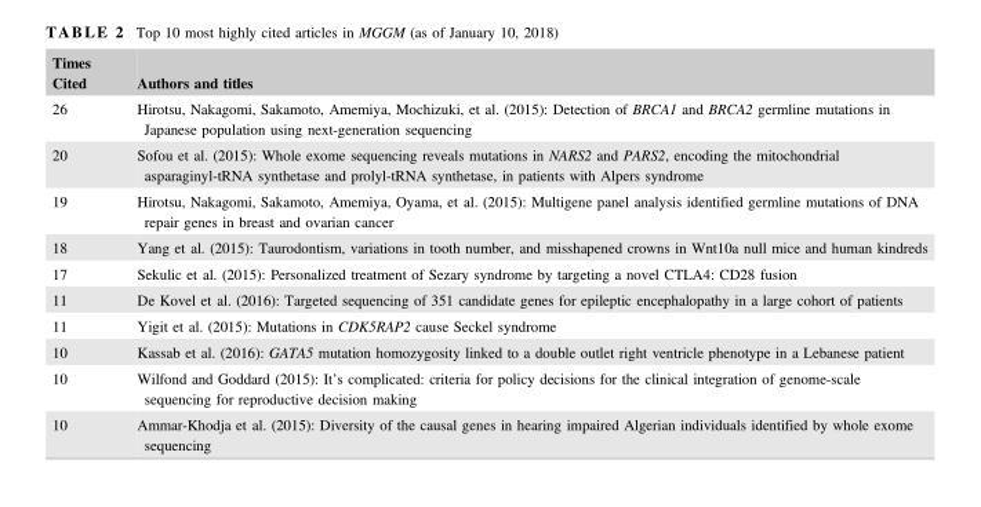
<table><thead><tr><td>Times Cited</td><td>Authors and titles</td></tr></thead><tbody><tr><td>26</td><td>Hirotsu, Nakagomi, Sakamoto, Amemiya, Mochizuki, et al. (2015): Detection of BRCA1 and BRCA2 germline mutations in Japanese population using next-generation sequencing</td></tr><tr><td>20</td><td>Sofou et al. (2015): Whole exome sequencing reveals mutations in NARS2 and PARS2, encoding the mitochondrial asparaginyl-tRNA synthetase and prolyl-tRNA synthetase, in patients with Alpers syndrome</td></tr><tr><td>19</td><td>Hirotsu, Nakagomi, Sakamoto, Amemiya, Oyama, et al. (2015): Multigene panel analysis identified germline mutations of DNA repair genes in breast and ovarian cancer</td></tr><tr><td>18</td><td>Yang et al. (2015): Taurodontism, variations in tooth number, and misshapened crowns in Wnt10a null mice and human kindreds</td></tr><tr><td>17</td><td>Sekulic et al. (2015): Personalized treatment of Sezary syndrome by targeting a novel CTLA4: CD28 fusion</td></tr><tr><td>11</td><td>De Kovel et al. (2016): Targeted sequencing of 351 candidate genes for epileptic encephalopathy in a large cohort of patients</td></tr><tr><td>11</td><td>Yigit et al. (2015): Mutations in CDK5RAP2 cause Seckel syndrome</td></tr><tr><td>10</td><td>Kassab et al. (2016): GATA5 mutation homozygosity linked to a double outlet right ventricle phenotype in a Lebanese patient</td></tr><tr><td>10</td><td>Wilfond and Goddard (2015): It’s complicated: criteria for policy decisions for the clinical integration of genome-scale sequencing for reproductive decision making</td></tr><tr><td>10</td><td>Ammar-Khodja et al. (2015): Diversity of the causal genes in hearing impaired Algerian individuals identified by whole exome sequencing</td></tr></tbody></table>